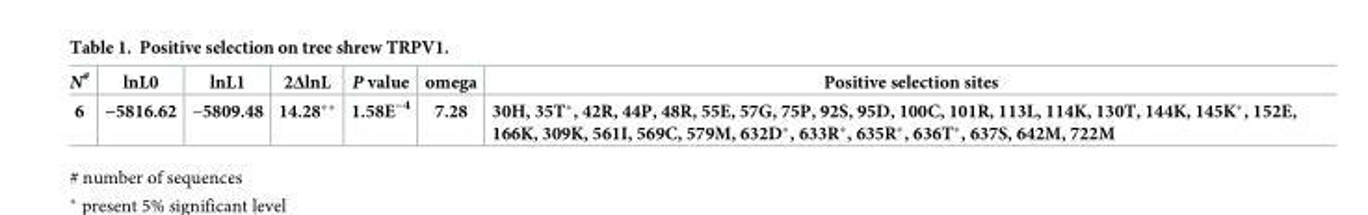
<table><thead><tr><td>N<sup>#</sup></td><td>lnL0</td><td>lnL1</td><td>2ΔlnL</td><td>P value</td><td>omega</td><td>Positive selection sites</td></tr></thead><tbody><tr><td>6</td><td>−5816.62</td><td>−5809.48</td><td>14.28**</td><td>1.58E<sup>−4</sup></td><td>7.28</td><td>30H, 35T*, 42R, 44P, 48R, 55E, 57G, 75P, 92S, 95D, 100C, 101R, 113L, 114K, 130T, 144K, 145K*, 152E, 166K, 309K, 561I, 569C, 579M, 632D*, 633R*, 635R*, 636T*, 637S, 642M, 722M</td></tr></tbody></table>